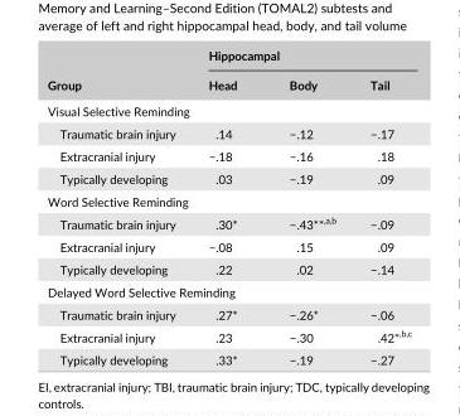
<table><thead><tr><td rowspan="2">Group</td><td colspan="3">Hippocampal</td></tr><tr><td>Head</td><td>Body</td><td>Tail</td></tr></thead><tbody><tr><td colspan="4">Visual Selective Reminding</td></tr><tr><td>Traumatic brain injury</td><td>.14</td><td>−.12</td><td>−.17</td></tr><tr><td>Extracranial injury</td><td>−.18</td><td>−.16</td><td>.18</td></tr><tr><td>Typically developing</td><td>.03</td><td>−.19</td><td>.09</td></tr><tr><td colspan="4">Word Selective Reminding</td></tr><tr><td>Traumatic brain injury</td><td>.30*</td><td>−.43**<sup>,</sup>a<sup>,</sup>b</td><td>−.09</td></tr><tr><td>Extracranial injury</td><td>−.08</td><td>.15</td><td>.09</td></tr><tr><td>Typically developing</td><td>.22</td><td>.02</td><td>−.14</td></tr><tr><td colspan="4">Delayed Word Selective Reminding</td></tr><tr><td>Traumatic brain injury</td><td>.27*</td><td>−.26*</td><td>−.06</td></tr><tr><td>Extracranial injury</td><td>.23</td><td>−.30</td><td>.42*<sup>,</sup>b<sup>,</sup>c</td></tr><tr><td>Typically developing</td><td>.33*</td><td>−.19</td><td>−.27</td></tr></tbody></table>